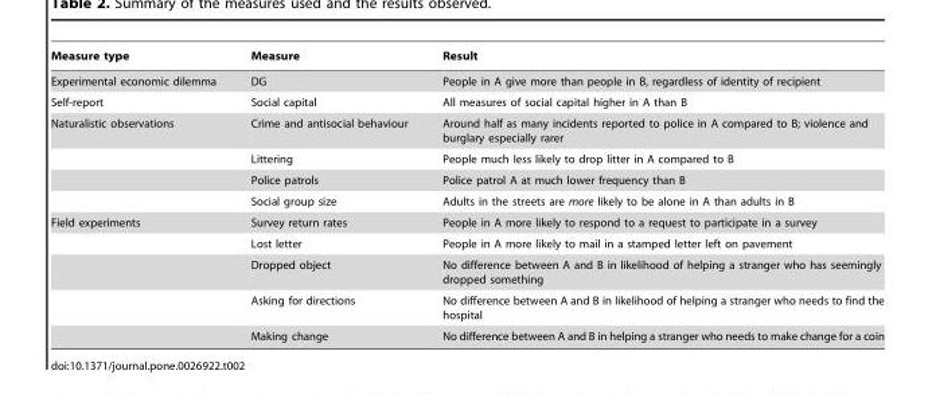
<table><thead><tr><td>Measure type</td><td>Measure</td><td>Result</td></tr></thead><tbody><tr><td>Experimental economic dilemma</td><td>DG</td><td>People in A give more than people in B, regardless of identity of recipient</td></tr><tr><td>Self-report</td><td>Social capital</td><td>All measures of social capital higher in A than B</td></tr><tr><td rowspan="4">Naturalistic observations</td><td>Crime and antisocial behaviour</td><td>Around half as many incidents reported to police in A compared to B; violence and burglary especially rarer</td></tr><tr><td>Littering</td><td>People much less likely to drop litter in A compared to B</td></tr><tr><td>Police patrols</td><td>Police patrol A at much lower frequency than B</td></tr><tr><td>Social group size</td><td>Adults in the streets are more likely to be alone in A than adults in B</td></tr><tr><td rowspan="5">Field experiments</td><td>Survey return rates</td><td>People in A more likely to respond to a request to participate in a survey</td></tr><tr><td>Lost letter</td><td>People in A more likely to mail in a stamped letter left on pavement</td></tr><tr><td>Dropped object</td><td>No difference between A and B in likelihood of helping a stranger who has seemingly dropped something</td></tr><tr><td>Asking for directions</td><td>No difference between A and B in likelihood of helping a stranger who needs to find the hospital</td></tr><tr><td>Making change</td><td>No difference between A and B in helping a stranger who needs to make change for a coin</td></tr></tbody></table>